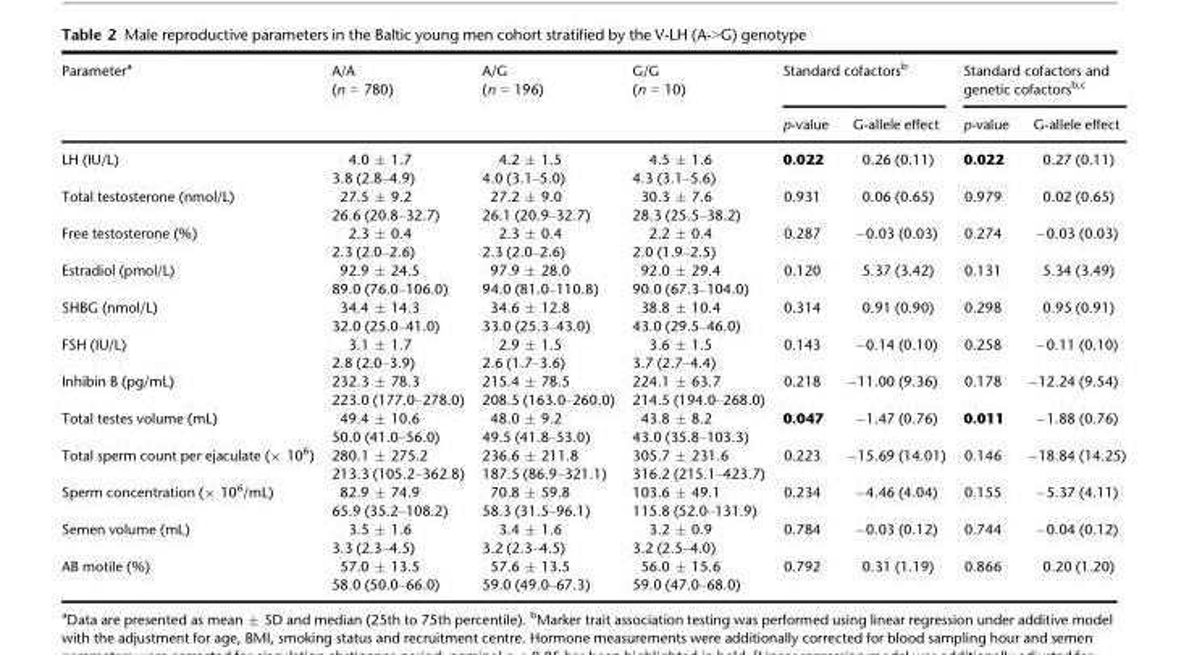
<table><thead><tr><td rowspan="2">Parameter<sup>a</sup></td><td rowspan="2">A/A (n = 780)</td><td rowspan="2">A/G (n = 196)</td><td rowspan="2">G/G (n = 10)</td><td colspan="2">Standard cofactors<sup>b</sup></td><td colspan="2">Standard cofactors and genetic cofactors<sup>b,</sup>c</td></tr><tr><td>p-value</td><td>G-allele effect</td><td>p-value</td><td>G-allele effect</td></tr></thead><tbody><tr><td>LH (IU/L)</td><td>4.0 ± 1.7 3.8 (2.8–4.9)</td><td>4.2 ± 1.5 4.0 (3.1–5.0)</td><td>4.5 ± 1.6 4.3 (3.1–5.6)</td><td>0.022</td><td>0.26 (0.11)</td><td>0.022</td><td>0.27 (0.11)</td></tr><tr><td>Total testosterone (nmol/L)</td><td>27.5 ± 9.2 26.6 (20.8–32.7)</td><td>27.2 ± 9.0 26.1 (20.9–32.7)</td><td>30.3 ± 7.6 28.3 (25.5–38.2)</td><td>0.931</td><td>0.06 (0.65)</td><td>0.979</td><td>0.02 (0.65)</td></tr><tr><td>Free testosterone (%)</td><td>2.3 ± 0.4 2.3 (2.0–2.6)</td><td>2.3 ± 0.4 2.3 (2.0–2.6)</td><td>2.2 ± 0.4 2.0 (1.9–2.5)</td><td>0.287</td><td>−0.03 (0.03)</td><td>0.274</td><td>−0.03 (0.03)</td></tr><tr><td>Estradiol (pmol/L)</td><td>92.9 ± 24.5 89.0 (76.0–106.0)</td><td>97.9 ± 28.0 94.0 (81.0–110.8)</td><td>92.0 ± 29.4 90.0 (67.3–104.0)</td><td>0.120</td><td>5.37 (3.42)</td><td>0.131</td><td>5.34 (3.49)</td></tr><tr><td>SHBG (nmol/L)</td><td>34.4 ± 14.3 32.0 (25.0–41.0)</td><td>34.6 ± 12.8 33.0 (25.3–43.0)</td><td>38.8 ± 10.4 43.0 (29.5–46.0)</td><td>0.314</td><td>0.91 (0.90)</td><td>0.298</td><td>0.95 (0.91)</td></tr><tr><td>FSH (IU/L)</td><td>3.1 ± 1.7 2.8 (2.0–3.9)</td><td>2.9 ± 1.5 2.6 (1.7–3.6)</td><td>3.6 ± 1.5 3.7 (2.7–4.4)</td><td>0.143</td><td>−0.14 (0.10)</td><td>0.258</td><td>−0.11 (0.10)</td></tr><tr><td>Inhibin B (pg/mL)</td><td>232.3 ± 78.3 223.0 (177.0–278.0)</td><td>215.4 ± 78.5 208.5 (163.0–260.0)</td><td>224.1 ± 63.7 214.5 (194.0–268.0)</td><td>0.218</td><td>−11.00 (9.36)</td><td>0.178</td><td>−12.24 (9.54)</td></tr><tr><td>Total testes volume (mL)</td><td>49.4 ± 10.6 50.0 (41.0–56.0)</td><td>48.0 ± 9.2 49.5 (41.8–53.0)</td><td>43.8 ± 8.2 43.0 (35.8–103.3)</td><td>0.047</td><td>−1.47 (0.76)</td><td>0.011</td><td>−1.88 (0.76)</td></tr><tr><td>Total sperm count per ejaculate (× 10<sup>6</sup>)</td><td>280.1 ± 275.2 213.3 (105.2–362.8)</td><td>236.6 ± 211.8 187.5 (86.9–321.1)</td><td>305.7 ± 231.6 316.2 (215.1–423.7)</td><td>0.223</td><td>−15.69 (14.01)</td><td>0.146</td><td>−18.84 (14.25)</td></tr><tr><td>Sperm concentration (× 10<sup>6</sup>/mL)</td><td>82.9 ± 74.9 65.9 (35.2–108.2)</td><td>70.8 ± 59.8 58.3 (31.5–96.1)</td><td>103.6 ± 49.1 115.8 (52.0–131.9)</td><td>0.234</td><td>−4.46 (4.04)</td><td>0.155</td><td>−5.37 (4.11)</td></tr><tr><td>Semen volume (mL)</td><td>3.5 ± 1.6 3.3 (2.3–4.5)</td><td>3.4 ± 1.6 3.2 (2.3–4.5)</td><td>3.2 ± 0.9 3.2 (2.5–4.0)</td><td>0.784</td><td>−0.03 (0.12)</td><td>0.744</td><td>−0.04 (0.12)</td></tr><tr><td>AB motile (%)</td><td>57.0 ± 13.5 58.0 (50.0–66.0)</td><td>57.6 ± 13.5 59.0 (49.0–67.3)</td><td>56.0 ± 15.6 59.0 (47.0–68.0)</td><td>0.792</td><td>0.31 (1.19)</td><td>0.866</td><td>0.20 (1.20)</td></tr></tbody></table>